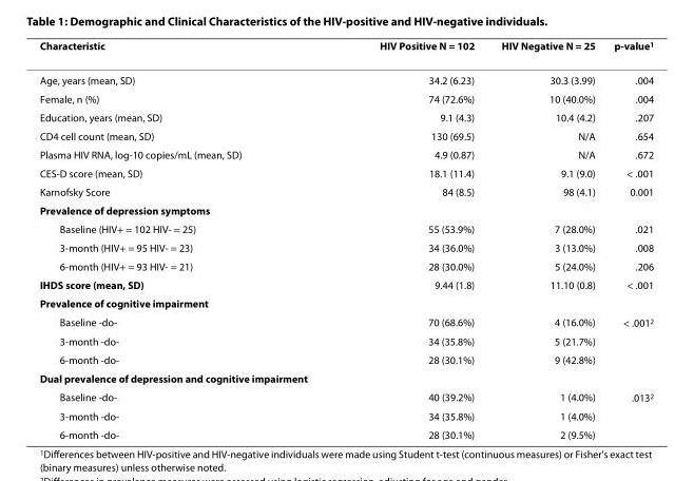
<table><thead><tr><td>Characteristic</td><td>HIV Positive N = 102</td><td>HIV Negative N = 25</td><td>p-value<sup>1</sup></td></tr></thead><tbody><tr><td>Age, years (mean, SD)</td><td>34.2 (6.23)</td><td>30.3 (3.99)</td><td>.004</td></tr><tr><td>Female, n (%)</td><td>74 (72.6%)</td><td>10 (40.0%)</td><td>.004</td></tr><tr><td>Education, years (mean, SD)</td><td>9.1 (4.3)</td><td>10.4 (4.2)</td><td>.207</td></tr><tr><td>CD4 cell count (mean, SD)</td><td>130 (69.5)</td><td>N/A</td><td>.654</td></tr><tr><td>Plasma HIV RNA, log-10 copies/mL (mean, SD)</td><td>4.9 (0.87)</td><td>N/A</td><td>.672</td></tr><tr><td>CES-D score (mean, SD)</td><td>18.1 (11.4)</td><td>9.1 (9.0)</td><td>&lt; .001</td></tr><tr><td>Karnofsky Score</td><td>84 (8.5)</td><td>98 (4.1)</td><td>0.001</td></tr><tr><td colspan="4">Prevalence of depression symptoms</td></tr><tr><td>Baseline (HIV+ = 102 HIV- = 25)</td><td>55 (53.9%)</td><td>7 (28.0%)</td><td>.021</td></tr><tr><td>3-month (HIV+ = 95 HIV- = 23)</td><td>34 (36.0%)</td><td>3 (13.0%)</td><td>.008</td></tr><tr><td>6-month (HIV+ = 93 HIV- = 21)</td><td>28 (30.0%)</td><td>5 (24.0%)</td><td>.206</td></tr><tr><td>IHDS score (mean, SD)</td><td>9.44 (1.8)</td><td>11.10 (0.8)</td><td>&lt; .001</td></tr><tr><td colspan="4">Prevalence of cognitive impairment</td></tr><tr><td>Baseline -do-</td><td>70 (68.6%)</td><td>4 (16.0%)</td><td>&lt; .001<sup>2</sup></td></tr><tr><td>3-month -do-</td><td>34 (35.8%)</td><td>5 (21.7%)</td><td></td></tr><tr><td>6-month -do-</td><td>28 (30.1%)</td><td>9 (42.8%)</td><td></td></tr><tr><td colspan="4">Dual prevalence of depression and cognitive impairment</td></tr><tr><td>Baseline -do-</td><td>40 (39.2%)</td><td>1 (4.0%)</td><td>.013<sup>2</sup></td></tr><tr><td>3-month -do-</td><td>34 (35.8%)</td><td>1 (4.0%)</td><td></td></tr><tr><td>6-month -do-</td><td>28 (30.1%)</td><td>2 (9.5%)</td><td></td></tr></tbody></table>